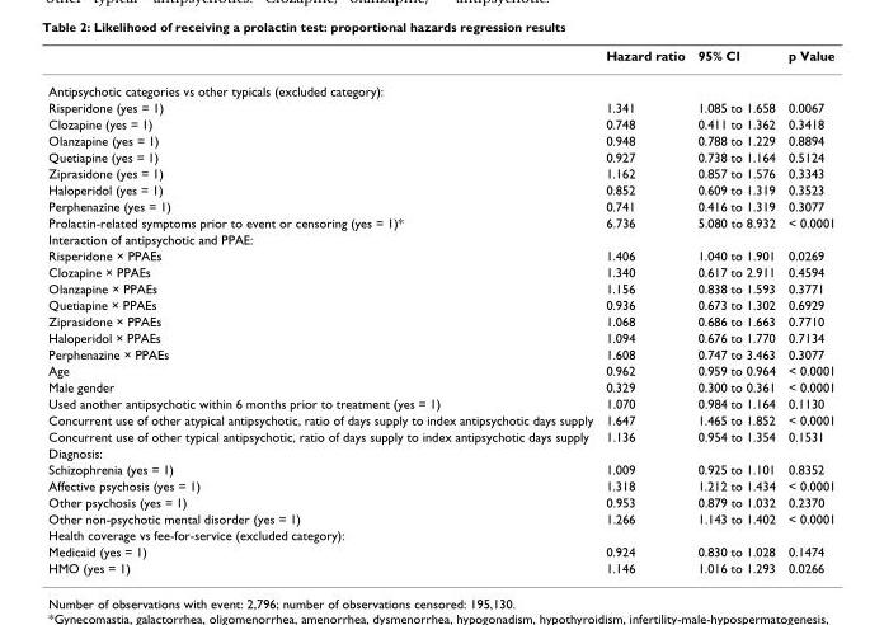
<table><thead><tr><td></td><td>Hazard ratio</td><td>95% CI</td><td>p Value</td></tr></thead><tbody><tr><td colspan="4">Antipsychotic categories vs other typicals (excluded category):</td></tr><tr><td>Risperidone (yes = 1)</td><td>1.341</td><td>1.085 to 1.658</td><td>0.0067</td></tr><tr><td>Clozapine (yes = 1)</td><td>0.748</td><td>0.411 to 1.362</td><td>0.3418</td></tr><tr><td>Olanzapine (yes = 1)</td><td>0.948</td><td>0.788 to 1.229</td><td>0.8894</td></tr><tr><td>Quetiapine (yes = 1)</td><td>0.927</td><td>0.738 to 1.164</td><td>0.5124</td></tr><tr><td>Ziprasidone (yes = 1)</td><td>1.162</td><td>0.857 to 1.576</td><td>0.3343</td></tr><tr><td>Haloperidol (yes = 1)</td><td>0.852</td><td>0.609 to 1.319</td><td>0.3523</td></tr><tr><td>Perphenazine (yes = 1)</td><td>0.741</td><td>0.416 to 1.319</td><td>0.3077</td></tr><tr><td>Prolactin-related symptoms prior to event or censoring (yes = 1)*</td><td>6.736</td><td>5.080 to 8.932</td><td>&lt; 0.0001</td></tr><tr><td colspan="4">Interaction of antipsychotic and PPAE:</td></tr><tr><td>Risperidone × PPAEs</td><td>1.406</td><td>1.040 to 1.901</td><td>0.0269</td></tr><tr><td>Clozapine × PPAEs</td><td>1.340</td><td>0.617 to 2.911</td><td>0.4594</td></tr><tr><td>Olanzapine × PPAEs</td><td>1.156</td><td>0.838 to 1.593</td><td>0.3771</td></tr><tr><td>Quetiapine × PPAEs</td><td>0.936</td><td>0.673 to 1.302</td><td>0.6929</td></tr><tr><td>Ziprasidone × PPAEs</td><td>1.068</td><td>0.686 to 1.663</td><td>0.7710</td></tr><tr><td>Haloperidol × PPAEs</td><td>1.094</td><td>0.676 to 1.770</td><td>0.7134</td></tr><tr><td>Perphenazine × PPAEs</td><td>1.608</td><td>0.747 to 3.463</td><td>0.3077</td></tr><tr><td>Age</td><td>0.962</td><td>0.959 to 0.964</td><td>&lt; 0.0001</td></tr><tr><td>Male gender</td><td>0.329</td><td>0.300 to 0.361</td><td>&lt; 0.0001</td></tr><tr><td>Used another antipsychotic within 6 months prior to treatment (yes = 1)</td><td>1.070</td><td>0.984 to 1.164</td><td>0.1130</td></tr><tr><td>Concurrent use of other atypical antipsychotic, ratio of days supply to index antipsychotic days supply</td><td>1.647</td><td>1.465 to 1.852</td><td>&lt; 0.0001</td></tr><tr><td>Concurrent use of other typical antipsychotic, ratio of days supply to index antipsychotic days supply</td><td>1.136</td><td>0.954 to 1.354</td><td>0.1531</td></tr><tr><td colspan="4">Diagnosis:</td></tr><tr><td>Schizophrenia (yes = 1)</td><td>1.009</td><td>0.925 to 1.101</td><td>0.8352</td></tr><tr><td>Affective psychosis (yes = 1)</td><td>1.318</td><td>1.212 to 1.434</td><td>&lt; 0.0001</td></tr><tr><td>Other psychosis (yes = 1)</td><td>0.953</td><td>0.879 to 1.032</td><td>0.2370</td></tr><tr><td>Other non-psychotic mental disorder (yes = 1)</td><td>1.266</td><td>1.143 to 1.402</td><td>&lt; 0.0001</td></tr><tr><td colspan="4">Health coverage vs fee-for-service (excluded category):</td></tr><tr><td>Medicaid (yes = 1)</td><td>0.924</td><td>0.830 to 1.028</td><td>0.1474</td></tr><tr><td>HMO (yes = 1)</td><td>1.146</td><td>1.016 to 1.293</td><td>0.0266</td></tr></tbody></table>